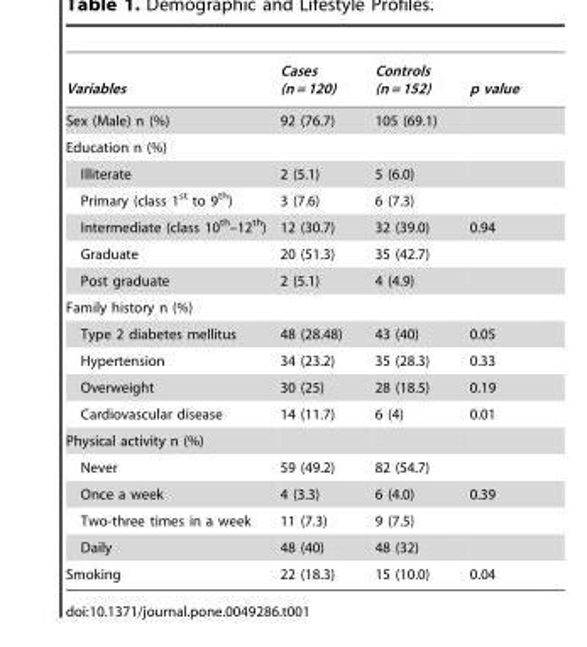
<table><thead><tr><td>Variables</td><td>Cases (n = 120)</td><td>Controls (n = 152)</td><td>p value</td></tr></thead><tbody><tr><td>Sex (Male) n (%)</td><td>92 (76.7)</td><td>105 (69.1)</td><td></td></tr><tr><td colspan="4">Education n (%)</td></tr><tr><td>Illiterate</td><td>2 (5.1)</td><td>5 (6.0)</td><td></td></tr><tr><td>Primary (class 1<sup>st</sup> to 9<sup>th</sup>)</td><td>3 (7.6)</td><td>6 (7.3)</td><td></td></tr><tr><td>Intermediate (class 10<sup>th</sup>–12<sup>th</sup>)</td><td>12 (30.7)</td><td>32 (39.0)</td><td>0.94</td></tr><tr><td>Graduate</td><td>20 (51.3)</td><td>35 (42.7)</td><td></td></tr><tr><td>Post graduate</td><td>2 (5.1)</td><td>4 (4.9)</td><td></td></tr><tr><td colspan="4">Family history n (%)</td></tr><tr><td>Type 2 diabetes mellitus</td><td>48 (28.48)</td><td>43 (40)</td><td>0.05</td></tr><tr><td>Hypertension</td><td>34 (23.2)</td><td>35 (28.3)</td><td>0.33</td></tr><tr><td>Overweight</td><td>30 (25)</td><td>28 (18.5)</td><td>0.19</td></tr><tr><td>Cardiovascular disease</td><td>14 (11.7)</td><td>6 (4)</td><td>0.01</td></tr><tr><td colspan="4">Physical activity n (%)</td></tr><tr><td>Never</td><td>59 (49.2)</td><td>82 (54.7)</td><td></td></tr><tr><td>Once a week</td><td>4 (3.3)</td><td>6 (4.0)</td><td>0.39</td></tr><tr><td>Two-three times in a week</td><td>11 (7.3)</td><td>9 (7.5)</td><td></td></tr><tr><td>Daily</td><td>48 (40)</td><td>48 (32)</td><td></td></tr><tr><td>Smoking</td><td>22 (18.3)</td><td>15 (10.0)</td><td>0.04</td></tr></tbody></table>